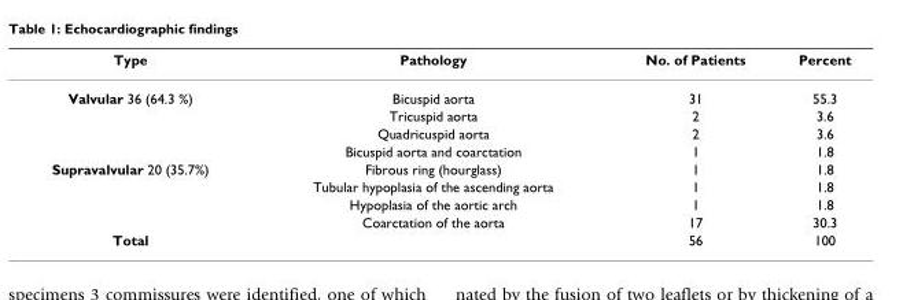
<table><thead><tr><td>Type</td><td>Pathology</td><td>No. of Patients</td><td>Percent</td></tr></thead><tbody><tr><td rowspan="4">Valvular 36 (64.3 %)</td><td>Bicuspid aorta</td><td>31</td><td>55.3</td></tr><tr><td>Tricuspid aorta</td><td>2</td><td>3.6</td></tr><tr><td>Quadricuspid aorta</td><td>2</td><td>3.6</td></tr><tr><td>Bicuspid aorta and coarctation</td><td>1</td><td>1.8</td></tr><tr><td rowspan="4">Supravalvular 20 (35.7%)</td><td>Fibrous ring (hourglass)</td><td>1</td><td>1.8</td></tr><tr><td>Tubular hypoplasia of the ascending aorta</td><td>1</td><td>1.8</td></tr><tr><td>Hypoplasia of the aortic arch</td><td>1</td><td>1.8</td></tr><tr><td>Coarctation of the aorta</td><td>17</td><td>30.3</td></tr><tr><td>Total</td><td></td><td>56</td><td>100</td></tr></tbody></table>